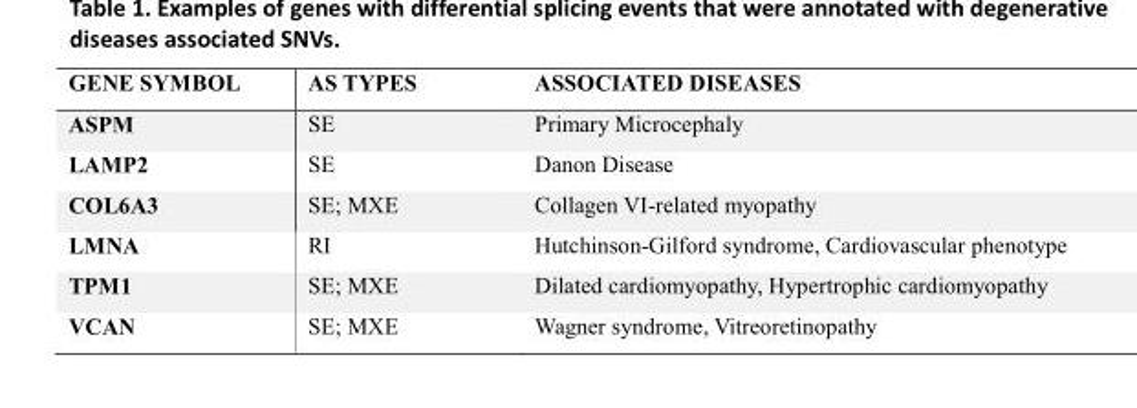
<table><tbody><tr><td>GENE SYMBOL</td><td>AS TYPES</td><td>ASSOCIATED DISEASES</td></tr><tr><td>ASPM</td><td>SE</td><td>Primary Microcephaly</td></tr><tr><td>LAMP2</td><td>SE</td><td>Danon Disease</td></tr><tr><td>COL6A3</td><td>SE; MXE</td><td>Collagen VI-related myopathy</td></tr><tr><td>LMNA</td><td>RI</td><td>Hutchinson-Gilford syndrome, Cardiovascular phenotype</td></tr><tr><td>TPM1</td><td>SE; MXE</td><td>Dilated cardiomyopathy, Hypertrophic cardiomyopathy</td></tr><tr><td>VCAN</td><td>SE; MXE</td><td>Wagner syndrome, Vitreoretinopathy</td></tr></tbody></table>